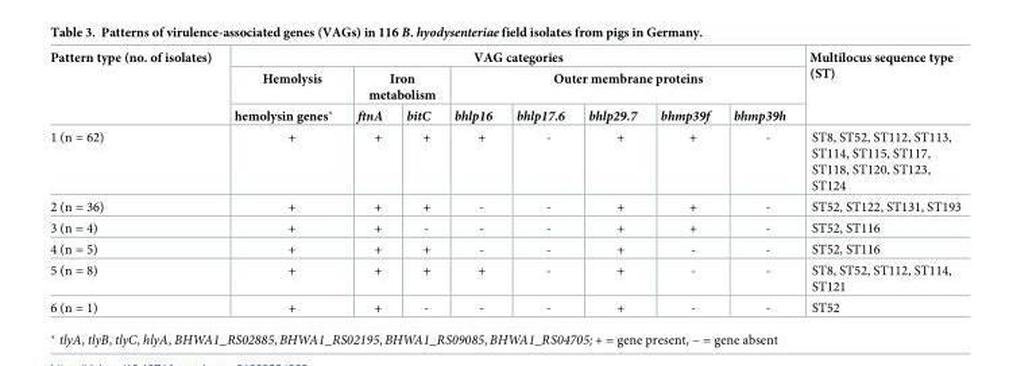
<table><thead><tr><td rowspan="3">Pattern type (no. of isolates)</td><td colspan="8">VAG categories</td><td rowspan="3">Multilocus sequence type (ST)</td></tr><tr><td rowspan="2">Hemolysis hemolysin genes*</td><td colspan="2">Iron metabolism</td><td colspan="5">Outer membrane proteins</td></tr><tr><td>ftnA</td><td>bitC</td><td>bhlp16</td><td>bhlp17.6</td><td>bhlp29.7</td><td>bhmp39f</td><td>bhmp39h</td></tr></thead><tbody><tr><td>1 (n = 62)</td><td>+</td><td>+</td><td>+</td><td>+</td><td>-</td><td>+</td><td>+</td><td>-</td><td>ST8, ST52, ST112, ST113, ST114, ST115, ST117, ST118, ST120, ST123, ST124</td></tr><tr><td>2 (n = 36)</td><td>+</td><td>+</td><td>+</td><td>-</td><td>-</td><td>+</td><td>+</td><td>-</td><td>ST52, ST122, ST131, ST193</td></tr><tr><td>3 (n = 4)</td><td>+</td><td>+</td><td>-</td><td>-</td><td>-</td><td>+</td><td>+</td><td>-</td><td>ST52, ST116</td></tr><tr><td>4 (n = 5)</td><td>+</td><td>+</td><td>+</td><td>-</td><td>-</td><td>+</td><td>-</td><td>-</td><td>ST52, ST116</td></tr><tr><td>5 (n = 8)</td><td>+</td><td>+</td><td>+</td><td>+</td><td>-</td><td>+</td><td>-</td><td>-</td><td>ST8, ST52, ST112, ST114, ST121</td></tr><tr><td>6 (n = 1)</td><td>+</td><td>+</td><td>-</td><td>-</td><td>-</td><td>+</td><td>-</td><td>-</td><td>ST52</td></tr></tbody></table>